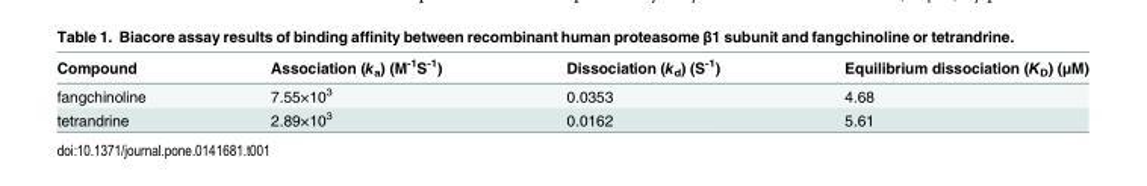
<table><thead><tr><td>Compound</td><td>Association (k<sub>a</sub>) (M<sup>-1</sup>S<sup>-1</sup>)</td><td>Dissociation (k<sub>d</sub>) (S<sup>-1</sup>)</td><td>Equilibrium dissociation (K<sub>D</sub>) (μM)</td></tr></thead><tbody><tr><td>fangchinoline</td><td>7.55×10<sup>3</sup></td><td>0.0353</td><td>4.68</td></tr><tr><td>tetrandrine</td><td>2.89×10<sup>3</sup></td><td>0.0162</td><td>5.61</td></tr></tbody></table>